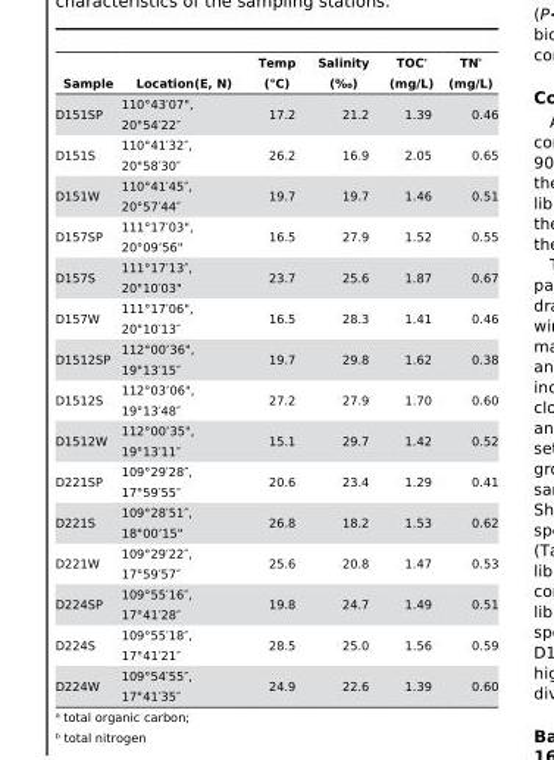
<table><thead><tr><td>Sample</td><td>Location(E, N)</td><td>Temp (°C)</td><td>Salinity (‰)</td><td>TOC <sup>a</sup> (mg/L)</td><td>TN <sup>b</sup> (mg/L)</td></tr></thead><tbody><tr><td>D151SP</td><td>110°43′07&quot;, 20°54′22″</td><td>17.2</td><td>21.2</td><td>1.39</td><td>0.46</td></tr><tr><td>D151S</td><td>110°41′32″, 20°58′30″</td><td>26.2</td><td>16.9</td><td>2.05</td><td>0.65</td></tr><tr><td>D151W</td><td>110°41′45″, 20°57′44″</td><td>19.7</td><td>19.7</td><td>1.46</td><td>0.51</td></tr><tr><td>D157SP</td><td>111°17′03&quot;, 20°09’56&quot;</td><td>16.5</td><td>27.9</td><td>1.52</td><td>0.55</td></tr><tr><td>D157S</td><td>111°17′13″, 20°10′03&quot;</td><td>23.7</td><td>25.6</td><td>1.87</td><td>0.67</td></tr><tr><td>D157W</td><td>111°17′06&quot;, 20°10′13″</td><td>16.5</td><td>28.3</td><td>1.41</td><td>0.46</td></tr><tr><td>D1512SP</td><td>112°00’36&quot;, 19°13′15″</td><td>19.7</td><td>29.8</td><td>1.62</td><td>0.38</td></tr><tr><td>D1512S</td><td>112°03’06&quot;, 19°13′48″</td><td>27.2</td><td>27.9</td><td>1.70</td><td>0.60</td></tr><tr><td>D1512W</td><td>112°00’35&quot;, 19°13′11″</td><td>15.1</td><td>29.7</td><td>1.42</td><td>0.52</td></tr><tr><td>D221SP</td><td>109°29′28″, 17°59′55″</td><td>20.6</td><td>23.4</td><td>1.29</td><td>0.41</td></tr><tr><td>D221S</td><td>109°28′51″, 18°00’15&quot;</td><td>26.8</td><td>18.2</td><td>1.53</td><td>0.62</td></tr><tr><td>D221W</td><td>109°29′22″, 17°59′57″</td><td>25.6</td><td>20.8</td><td>1.47</td><td>0.53</td></tr><tr><td>D224SP</td><td>109°55′16″, 17°41′28″</td><td>19.8</td><td>24.7</td><td>1.49</td><td>0.51</td></tr><tr><td>D224S</td><td>109°55′18″, 17°41′21″</td><td>28.5</td><td>25.0</td><td>1.56</td><td>0.59</td></tr><tr><td>D224W</td><td>109°54′55″, 17°41′35″</td><td>24.9</td><td>22.6</td><td>1.39</td><td>0.60</td></tr></tbody></table>